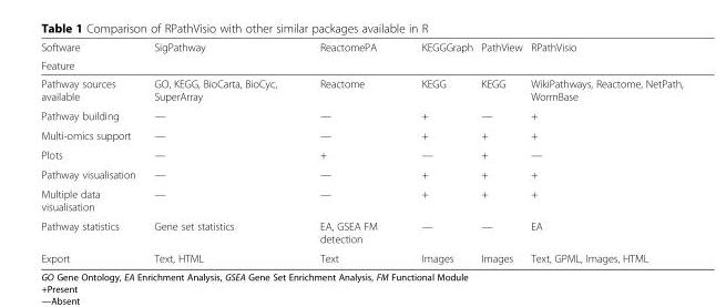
<table><thead><tr><td rowspan="2">Software Feature</td><td rowspan="2">SigPathway</td><td rowspan="2">ReactomePA</td><td rowspan="2">KEGGGraph</td><td rowspan="2">PathView</td><td rowspan="2">RPathVisio</td></tr><tr></tr></thead><tbody><tr><td>Pathway sources available</td><td>GO, KEGG, BioCarta, BioCyc, SuperArray</td><td>Reactome</td><td>KEGG</td><td>KEGG</td><td>WikiPathways, Reactome, NetPath, WormBase</td></tr><tr><td>Pathway building</td><td>—</td><td>—</td><td>+</td><td>—</td><td>+</td></tr><tr><td>Multi-omics support</td><td>—</td><td>—</td><td>+</td><td>+</td><td>+</td></tr><tr><td>Plots</td><td>—</td><td>+</td><td>—</td><td>+</td><td>—</td></tr><tr><td>Pathway visualisation</td><td>—</td><td>—</td><td>+</td><td>+</td><td>+</td></tr><tr><td>Multiple data visualisation</td><td>—</td><td>—</td><td>+</td><td>+</td><td>+</td></tr><tr><td>Pathway statistics</td><td>Gene set statistics</td><td>EA, GSEA FM detection</td><td>—</td><td>—</td><td>EA</td></tr><tr><td>Export</td><td>Text, HTML</td><td>Text</td><td>Images</td><td>Images</td><td>Text, GPML, Images, HTML</td></tr></tbody></table>